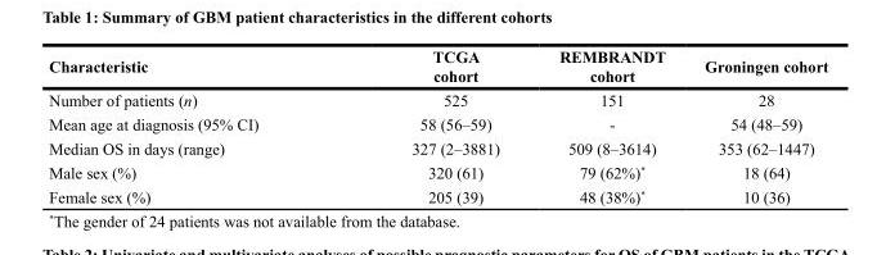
<table><thead><tr><td>Characteristic</td><td>TCGA cohort</td><td>REMBRANDT cohort</td><td>Groningen cohort</td></tr></thead><tbody><tr><td>Number of patients (n)</td><td>525</td><td>151</td><td>28</td></tr><tr><td>Mean age at diagnosis (95% CI)</td><td>58 (56–59)</td><td>-</td><td>54 (48–59)</td></tr><tr><td>Median OS in days (range)</td><td>327 (2–3881)</td><td>509 (8–3614)</td><td>353 (62–1447)</td></tr><tr><td>Male sex (%)</td><td>320 (61)</td><td>79 (62%)*</td><td>18 (64)</td></tr><tr><td>Female sex (%)</td><td>205 (39)</td><td>48 (38%)*</td><td>10 (36)</td></tr></tbody></table>